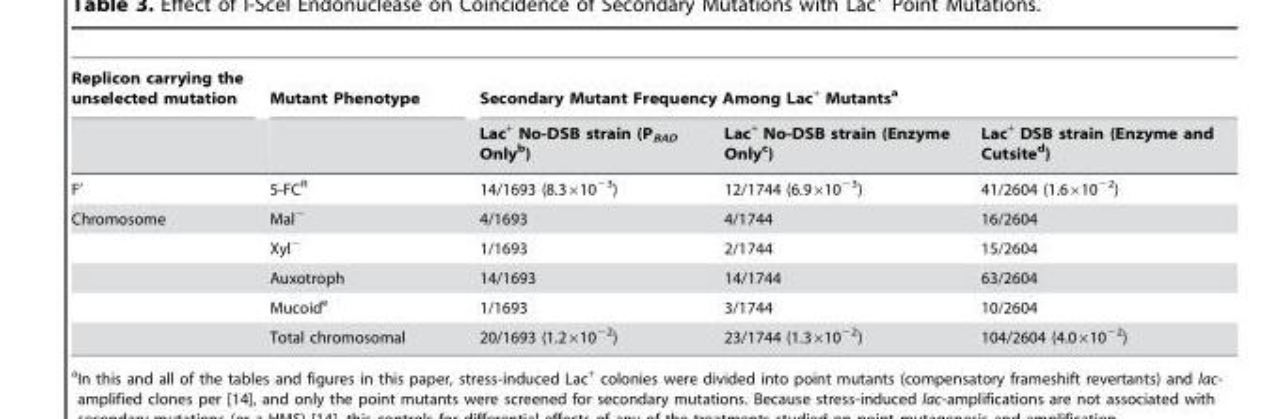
<table><thead><tr><td rowspan="2">Replicon carrying the unselected mutation</td><td rowspan="2">Mutant Phenotype</td><td colspan="3">Secondary Mutant Frequency Among Lac<sup>+</sup> Mutants<sup>a</sup></td></tr><tr><td>Lac<sup>+</sup> No-DSB strain (P<sub>BAD</sub> Only<sup>b</sup>)</td><td>Lac<sup>+</sup> No-DSB strain (Enzyme Only<sup>c</sup>)</td><td>Lac<sup>+</sup> DSB strain (Enzyme and Cutsite<sup>d</sup>)</td></tr></thead><tbody><tr><td>F’</td><td>5-FC<sup>R</sup></td><td>14/1693 (8.3×10<sup>−3</sup>)</td><td>12/1744 (6.9×10<sup>−3</sup>)</td><td>41/2604 (1.6×10<sup>−2</sup>)</td></tr><tr><td rowspan="5">Chromosome</td><td>Mal<sup>−</sup></td><td>4/1693</td><td>4/1744</td><td>16/2604</td></tr><tr><td>Xyl<sup>−</sup></td><td>1/1693</td><td>2/1744</td><td>15/2604</td></tr><tr><td>Auxotroph</td><td>14/1693</td><td>14/1744</td><td>63/2604</td></tr><tr><td>Mucoid<sup>e</sup></td><td>1/1693</td><td>3/1744</td><td>10/2604</td></tr><tr><td>Total chromosomal</td><td>20/1693 (1.2×10<sup>−2</sup>)</td><td>23/1744 (1.3×10<sup>−2</sup>)</td><td>104/2604 (4.0×10<sup>−2</sup>)</td></tr></tbody></table>